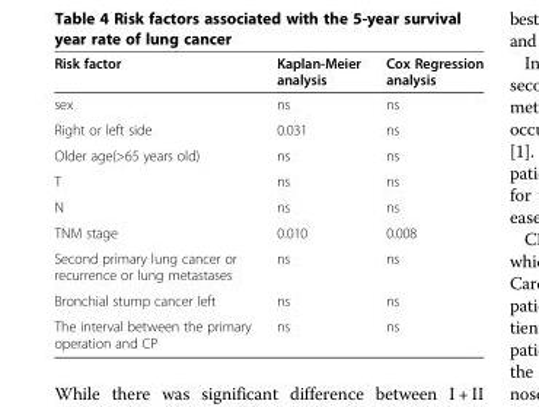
<table><thead><tr><td>Risk factor</td><td>Kaplan-Meier analysis</td><td>Cox Regression analysis</td></tr></thead><tbody><tr><td>sex</td><td>ns</td><td>ns</td></tr><tr><td>Right or left side</td><td>0.031</td><td>ns</td></tr><tr><td>Older age(&gt;65 years old)</td><td>ns</td><td>ns</td></tr><tr><td>T</td><td>ns</td><td>ns</td></tr><tr><td>N</td><td>ns</td><td>ns</td></tr><tr><td>TNM stage</td><td>0.010</td><td>0.008</td></tr><tr><td>Second primary lung cancer or recurrence or lung metastases</td><td>ns</td><td>ns</td></tr><tr><td>Bronchial stump cancer left</td><td>ns</td><td>ns</td></tr><tr><td>The interval between the primary operation and CP</td><td>ns</td><td>ns</td></tr></tbody></table>